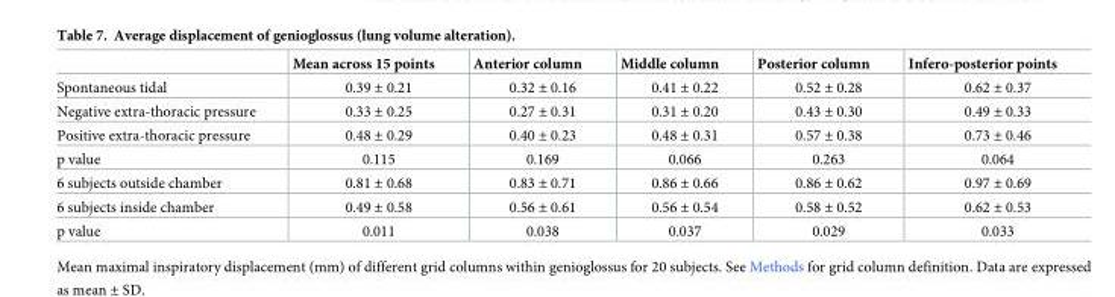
<table><thead><tr><td></td><td>Mean across 15 points</td><td>Anterior column</td><td>Middle column</td><td>Posterior column</td><td>Infero-posterior points</td></tr></thead><tbody><tr><td>Spontaneous tidal</td><td>0.39 ± 0.21</td><td>0.32 ± 0.16</td><td>0.41 ± 0.22</td><td>0.52 ± 0.28</td><td>0.62 ± 0.37</td></tr><tr><td>Negative extra-thoracic pressure</td><td>0.33 ± 0.25</td><td>0.27 ± 0.31</td><td>0.31 ± 0.20</td><td>0.43 ± 0.30</td><td>0.49 ± 0.33</td></tr><tr><td>Positive extra-thoracic pressure</td><td>0.48 ± 0.29</td><td>0.40 ± 0.23</td><td>0.48 ± 0.31</td><td>0.57 ± 0.38</td><td>0.73 ± 0.46</td></tr><tr><td>p value</td><td>0.115</td><td>0.169</td><td>0.066</td><td>0.263</td><td>0.064</td></tr><tr><td>6 subjects outside chamber</td><td>0.81 ± 0.68</td><td>0.83 ± 0.71</td><td>0.86 ± 0.66</td><td>0.86 ± 0.62</td><td>0.97 ± 0.69</td></tr><tr><td>6 subjects inside chamber</td><td>0.49 ± 0.58</td><td>0.56 ± 0.61</td><td>0.56 ± 0.54</td><td>0.58 ± 0.52</td><td>0.62 ± 0.53</td></tr><tr><td>p value</td><td>0.011</td><td>0.038</td><td>0.037</td><td>0.029</td><td>0.033</td></tr></tbody></table>